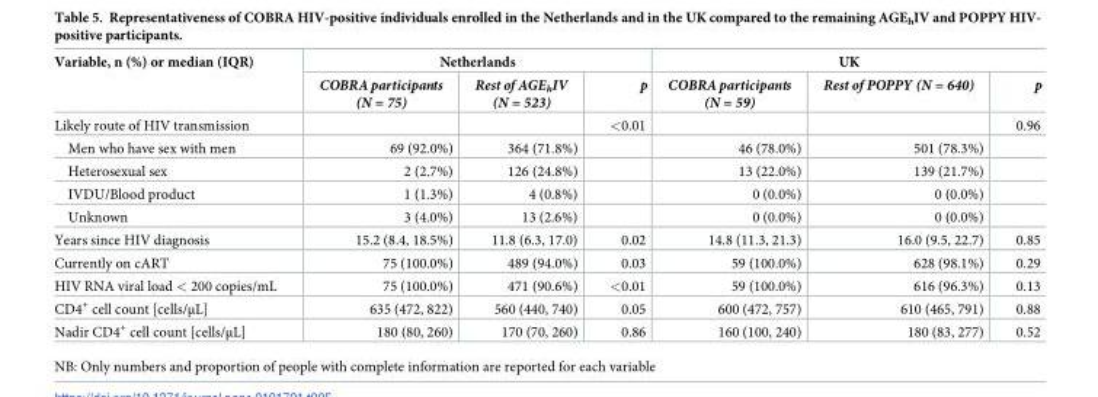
<table><thead><tr><td rowspan="2">Variable, n (%) or median (IQR)</td><td colspan="3">Netherlands</td><td colspan="3">UK</td></tr><tr><td>COBRA participants (N = 75)</td><td>Rest of AGE<sub>h</sub>IV (N = 523)</td><td>p</td><td>COBRA participants (N = 59)</td><td>Rest of POPPY (N = 640)</td><td>p</td></tr></thead><tbody><tr><td>Likely route of HIV transmission</td><td></td><td></td><td>&lt;0.01</td><td></td><td></td><td>0.96</td></tr><tr><td>Men who have sex with men</td><td>69 (92.0%)</td><td>364 (71.8%)</td><td></td><td>46 (78.0%)</td><td>501 (78.3%)</td><td></td></tr><tr><td>Heterosexual sex</td><td>2 (2.7%)</td><td>126 (24.8%)</td><td></td><td>13 (22.0%)</td><td>139 (21.7%)</td><td></td></tr><tr><td>IVDU/Blood product</td><td>1 (1.3%)</td><td>4 (0.8%)</td><td></td><td>0 (0.0%)</td><td>0 (0.0%)</td><td></td></tr><tr><td>Unknown</td><td>3 (4.0%)</td><td>13 (2.6%)</td><td></td><td>0 (0.0%)</td><td>0 (0.0%)</td><td></td></tr><tr><td>Years since HIV diagnosis</td><td>15.2 (8.4, 18.5%)</td><td>11.8 (6.3, 17.0)</td><td>0.02</td><td>14.8 (11.3, 21.3)</td><td>16.0 (9.5, 22.7)</td><td>0.85</td></tr><tr><td>Currently on cART</td><td>75 (100.0%)</td><td>489 (94.0%)</td><td>0.03</td><td>59 (100.0%)</td><td>628 (98.1%)</td><td>0.29</td></tr><tr><td>HIV RNA viral load &lt; 200 copies/mL</td><td>75 (100.0%)</td><td>471 (90.6%)</td><td>&lt;0.01</td><td>59 (100.0%)</td><td>616 (96.3%)</td><td>0.13</td></tr><tr><td>CD4<sup>+</sup> cell count [cells/μL]</td><td>635 (472, 822)</td><td>560 (440, 740)</td><td>0.05</td><td>600 (472, 757)</td><td>610 (465, 791)</td><td>0.88</td></tr><tr><td>Nadir CD4<sup>+</sup> cell count [cells/μL]</td><td>180 (80, 260)</td><td>170 (70, 260)</td><td>0.86</td><td>160 (100, 240)</td><td>180 (83, 277)</td><td>0.52</td></tr></tbody></table>